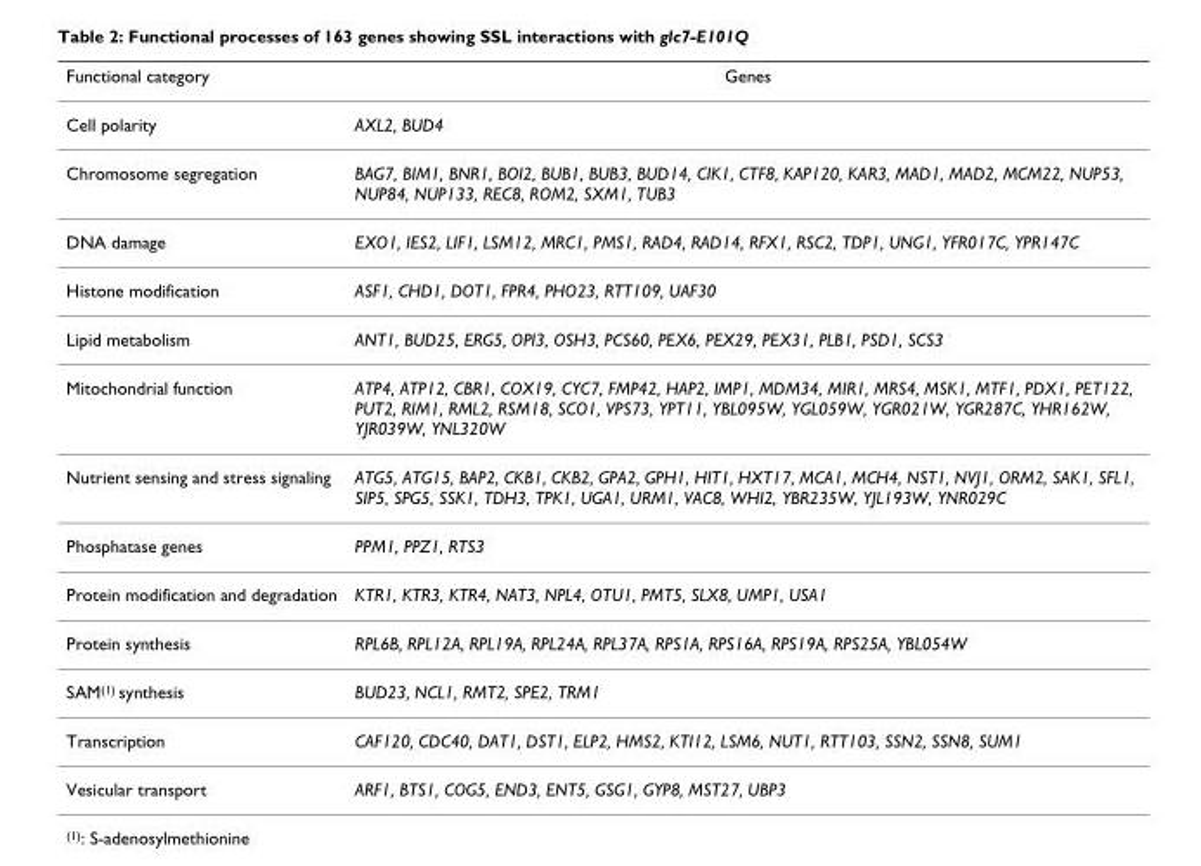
<table><thead><tr><td>Functional category</td><td>Genes</td></tr></thead><tbody><tr><td>Cell polarity</td><td>AXL2, BUD4</td></tr><tr><td>Chromosome segregation</td><td>BAG7, BIM1, BNR1, BOI2, BUB1, BUB3, BUD14, CIK1, CTF8, KAP120, KAR3, MAD1, MAD2, MCM22, NUP53, NUP84, NUP133, REC8, ROM2, SXM1, TUB3</td></tr><tr><td>DNA damage</td><td>EXO1, IES2, LIF1, LSM12, MRC1, PMS1, RAD4, RAD14, RFX1, RSC2, TDP1, UNG1, YFR017C, YPR147C</td></tr><tr><td>Histone modification</td><td>ASF1, CHD1, DOT1, FPR4, PHO23, RTT109, UAF30</td></tr><tr><td>Lipid metabolism</td><td>ANT1, BUD25, ERG5, OPI3, OSH3, PCS60, PEX6, PEX29, PEX31, PLB1, PSD1, SCS3</td></tr><tr><td>Mitochondrial function</td><td>ATP4, ATP12, CBR1, COX19, CYC7, FMP42, HAP2, IMP1, MDM34, MIR1, MRS4, MSK1, MTF1, PDX1, PET122, PUT2, RIM1, RML2, RSM18, SCO1, VPS73, YPT11, YBL095W, YGL059W, YGR021W, YGR287C, YHR162W, YJR039W, YNL320W</td></tr><tr><td>Nutrient sensing and stress signaling</td><td>ATG5, ATG15, BAP2, CKB1, CKB2, GPA2, GPH1, HIT1, HXT17, MCA1, MCH4, NST1, NVJ1, ORM2, SAK1, SFL1, SIP5, SPG5, SSK1, TDH3, TPK1, UGA1, URM1, VAC8, WHI2, YBR235W, YJL193W, YNR029C</td></tr><tr><td>Phosphatase genes</td><td>PPM1, PPZ1, RTS3</td></tr><tr><td>Protein modification and degradation</td><td>KTR1, KTR3, KTR4, NAT3, NPL4, OTU1, PMT5, SLX8, UMP1, USA1</td></tr><tr><td>Protein synthesis</td><td>RPL6B, RPL12A, RPL19A, RPL24A, RPL37A, RPS1A, RPS16A, RPS19A, RPS25A, YBL054W</td></tr><tr><td>SAM<sup>(1)</sup> synthesis</td><td>BUD23, NCL1, RMT2, SPE2, TRM1</td></tr><tr><td>Transcription</td><td>CAF120, CDC40, DAT1, DST1, ELP2, HMS2, KTI12, LSM6, NUT1, RTT103, SSN2, SSN8, SUM1</td></tr><tr><td>Vesicular transport</td><td>ARF1, BTS1, COG5, END3, ENT5, GSG1, GYP8, MST27, UBP3</td></tr></tbody></table>